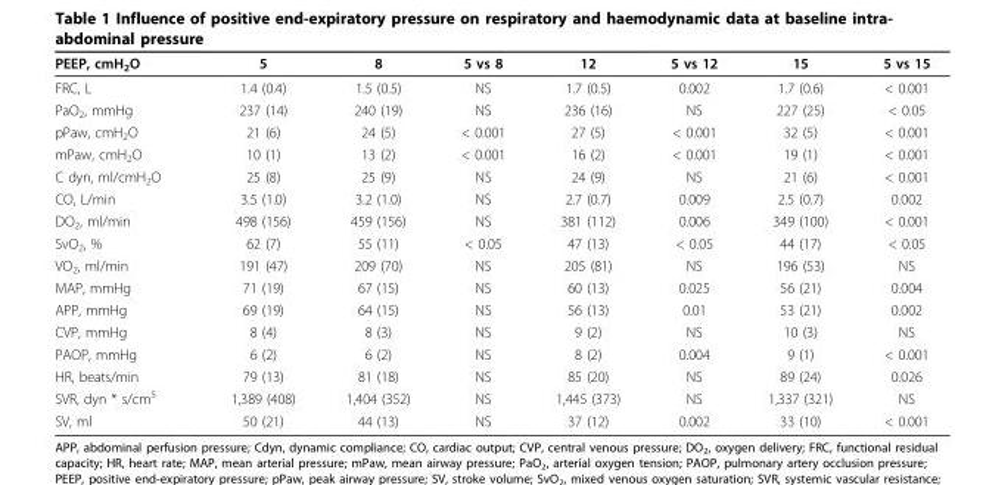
<table><thead><tr><td>PEEP, cmH<sub>2</sub>O</td><td>5</td><td>8</td><td>5 vs 8</td><td>12</td><td>5 vs 12</td><td>15</td><td>5 vs 15</td></tr></thead><tbody><tr><td>FRC, L</td><td>1.4 (0.4)</td><td>1.5 (0.5)</td><td>NS</td><td>1.7 (0.5)</td><td>0.002</td><td>1.7 (0.6)</td><td>&lt; 0.001</td></tr><tr><td>PaO<sub>2</sub>, mmHg</td><td>237 (14)</td><td>240 (19)</td><td>NS</td><td>236 (16)</td><td>NS</td><td>227 (25)</td><td>&lt; 0.05</td></tr><tr><td>pPaw, cmH<sub>2</sub>O</td><td>21 (6)</td><td>24 (5)</td><td>&lt; 0.001</td><td>27 (5)</td><td>&lt; 0.001</td><td>32 (5)</td><td>&lt; 0.001</td></tr><tr><td>mPaw, cmH<sub>2</sub>O</td><td>10 (1)</td><td>13 (2)</td><td>&lt; 0.001</td><td>16 (2)</td><td>&lt; 0.001</td><td>19 (1)</td><td>&lt; 0.001</td></tr><tr><td>C dyn, ml/cmH<sub>2</sub>O</td><td>25 (8)</td><td>25 (9)</td><td>NS</td><td>24 (9)</td><td>NS</td><td>21 (6)</td><td>&lt; 0.001</td></tr><tr><td>CO, L/min</td><td>3.5 (1.0)</td><td>3.2 (1.0)</td><td>NS</td><td>2.7 (0.7)</td><td>0.009</td><td>2.5 (0.7)</td><td>0.002</td></tr><tr><td>DO<sub>2</sub>, ml/min</td><td>498 (156)</td><td>459 (156)</td><td>NS</td><td>381 (112)</td><td>0.006</td><td>349 (100)</td><td>&lt; 0.001</td></tr><tr><td>SvO<sub>2</sub>, %</td><td>62 (7)</td><td>55 (11)</td><td>&lt; 0.05</td><td>47 (13)</td><td>&lt; 0.05</td><td>44 (17)</td><td>&lt; 0.05</td></tr><tr><td>VO<sub>2</sub>, ml/min</td><td>191 (47)</td><td>209 (70)</td><td>NS</td><td>205 (81)</td><td>NS</td><td>196 (53)</td><td>NS</td></tr><tr><td>MAP, mmHg</td><td>71 (19)</td><td>67 (15)</td><td>NS</td><td>60 (13)</td><td>0.025</td><td>56 (21)</td><td>0.004</td></tr><tr><td>APP, mmHg</td><td>69 (19)</td><td>64 (15)</td><td>NS</td><td>56 (13)</td><td>0.01</td><td>53 (21)</td><td>0.002</td></tr><tr><td>CVP, mmHg</td><td>8 (4)</td><td>8 (3)</td><td>NS</td><td>9 (2)</td><td>NS</td><td>10 (3)</td><td>NS</td></tr><tr><td>PAOP, mmHg</td><td>6 (2)</td><td>6 (2)</td><td>NS</td><td>8 (2)</td><td>0.004</td><td>9 (1)</td><td>&lt; 0.001</td></tr><tr><td>HR, beats/min</td><td>79 (13)</td><td>81 (18)</td><td>NS</td><td>85 (20)</td><td>NS</td><td>89 (24)</td><td>0.026</td></tr><tr><td>SVR, dyn * s/cm<sup>5</sup></td><td>1,389 (408)</td><td>1,404 (352)</td><td>NS</td><td>1,445 (373)</td><td>NS</td><td>1,337 (321)</td><td>NS</td></tr><tr><td>SV, ml</td><td>50 (21)</td><td>44 (13)</td><td>NS</td><td>37 (12)</td><td>0.002</td><td>33 (10)</td><td>&lt; 0.001</td></tr></tbody></table>